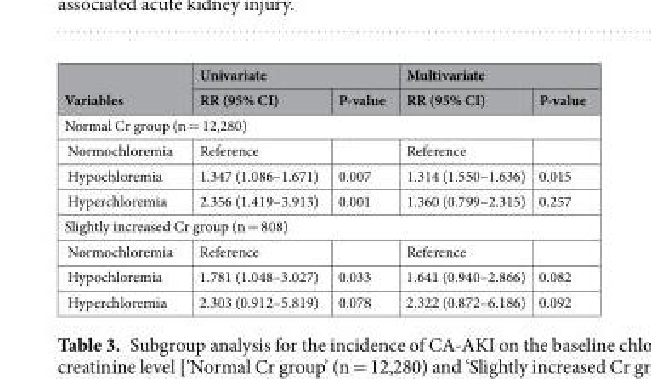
<table><thead><tr><td rowspan="2">Variables</td><td colspan="2">Univariate</td><td colspan="2">Multivariate</td></tr><tr><td>RR (95% CI)</td><td>P-value</td><td>RR (95% CI)</td><td>P-value</td></tr></thead><tbody><tr><td colspan="5">Normal Cr group (n = 12,280)</td></tr><tr><td>Normochloremia</td><td>Reference</td><td></td><td>Reference</td><td></td></tr><tr><td>Hypochloremia</td><td>1.347 (1.086–1.671)</td><td>0.007</td><td>1.314 (1.550–1.636)</td><td>0.015</td></tr><tr><td>Hyperchloremia</td><td>2.356 (1.419–3.913)</td><td>0.001</td><td>1.360 (0.799–2.315)</td><td>0.257</td></tr><tr><td colspan="5">Slightly increased Cr group (n = 808)</td></tr><tr><td>Normochloremia</td><td>Reference</td><td></td><td>Reference</td><td></td></tr><tr><td>Hypochloremia</td><td>1.781 (1.048–3.027)</td><td>0.033</td><td>1.641 (0.940–2.866)</td><td>0.082</td></tr><tr><td>Hyperchloremia</td><td>2.303 (0.912–5.819)</td><td>0.078</td><td>2.322 (0.872–6.186)</td><td>0.092</td></tr></tbody></table>